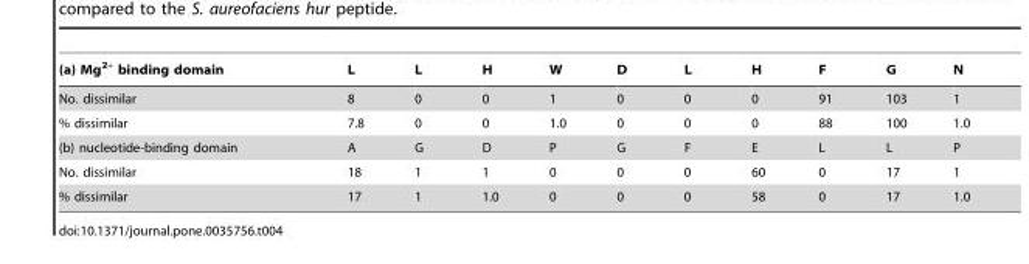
<table><thead><tr><td>(a) Mg<sup>2+</sup> binding domain</td><td>L</td><td>L</td><td>H</td><td>W</td><td>D</td><td>L</td><td>H</td><td>F</td><td>G</td><td>N</td></tr></thead><tbody><tr><td>No. dissimilar</td><td>8</td><td>0</td><td>0</td><td>1</td><td>0</td><td>0</td><td>0</td><td>91</td><td>103</td><td>1</td></tr><tr><td>% dissimilar</td><td>7.8</td><td>0</td><td>0</td><td>1.0</td><td>0</td><td>0</td><td>0</td><td>88</td><td>100</td><td>1.0</td></tr><tr><td>(b) nucleotide-binding domain</td><td>A</td><td>G</td><td>D</td><td>P</td><td>G</td><td>F</td><td>E</td><td>L</td><td>L</td><td>P</td></tr><tr><td>No. dissimilar</td><td>18</td><td>1</td><td>1</td><td>0</td><td>0</td><td>0</td><td>60</td><td>0</td><td>17</td><td>1</td></tr><tr><td>% dissimilar</td><td>17</td><td>1</td><td>1.0</td><td>0</td><td>0</td><td>0</td><td>58</td><td>0</td><td>17</td><td>1.0</td></tr></tbody></table>